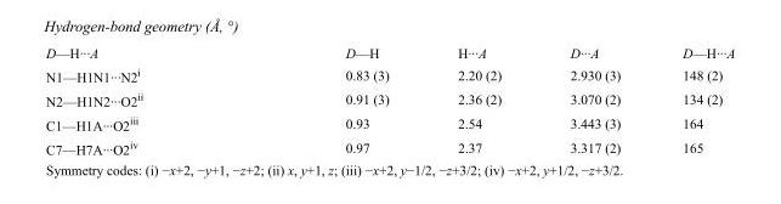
<table><tbody><tr><td>D—H···A</td><td>D—H</td><td>H···A</td><td>D···A</td><td>D—H···A</td></tr><tr><td>N1—H1N1···N2<sup>i</sup></td><td>0.83 (3)</td><td>2.20 (2)</td><td>2.930 (3)</td><td>148 (2)</td></tr><tr><td>N2—H1N2···O2<sup>ii</sup></td><td>0.91 (3)</td><td>2.36 (2)</td><td>3.070 (2)</td><td>134 (2)</td></tr><tr><td>C1—H1A···O2<sup>iii</sup></td><td>0.93</td><td>2.54</td><td>3.443 (3)</td><td>164</td></tr><tr><td>C7—H7A···O2<sup>iv</sup></td><td>0.97</td><td>2.37</td><td>3.317 (2)</td><td>165</td></tr></tbody></table>